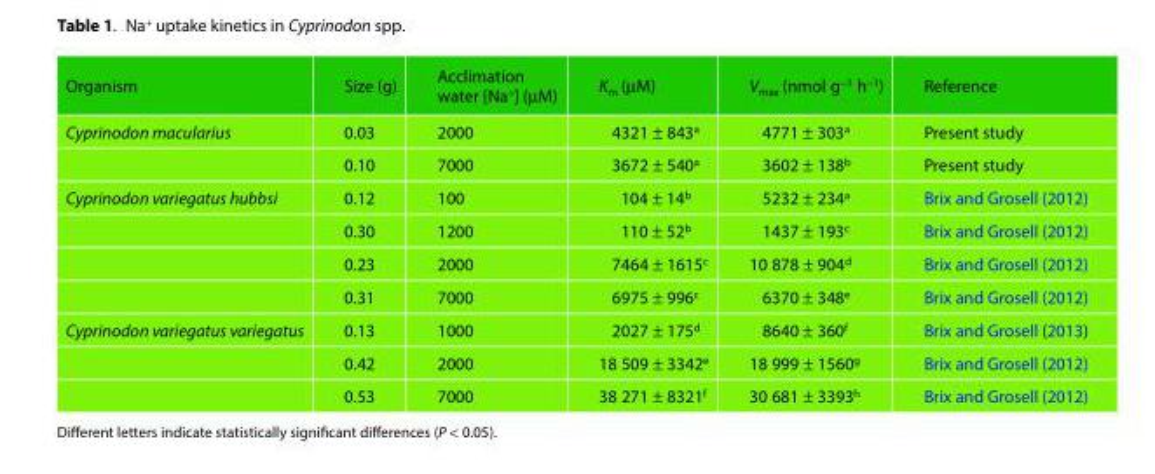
<table><thead><tr><td>Organism</td><td>Size (g)</td><td>Acclimation water [Na<sup>+</sup>] (µM)</td><td>K<sub>m</sub> (µM)</td><td>V<sub>max</sub> (nmol g<sup>−1</sup> h<sup>−1</sup>)</td><td>Reference</td></tr></thead><tbody><tr><td rowspan="2">Cyprinodon macularius</td><td>0.03</td><td>2000</td><td>4321 ± 843<sup>a</sup></td><td>4771 ± 303<sup>a</sup></td><td>Present study</td></tr><tr><td>0.10</td><td>7000</td><td>3672 ± 540<sup>a</sup></td><td>3602 ± 138<sup>b</sup></td><td>Present study</td></tr><tr><td rowspan="4">Cyprinodon variegatus hubbsi</td><td>0.12</td><td>100</td><td>104 ± 14<sup>b</sup></td><td>5232 ± 234<sup>a</sup></td><td>Brix and Grosell (2012)</td></tr><tr><td>0.30</td><td>1200</td><td>110 ± 52<sup>b</sup></td><td>1437 ± 193<sup>c</sup></td><td>Brix and Grosell (2012)</td></tr><tr><td>0.23</td><td>2000</td><td>7464 ± 1615<sup>c</sup></td><td>10 878 ± 904<sup>d</sup></td><td>Brix and Grosell (2012)</td></tr><tr><td>0.31</td><td>7000</td><td>6975 ± 996<sup>c</sup></td><td>6370 ± 348<sup>e</sup></td><td>Brix and Grosell (2012)</td></tr><tr><td rowspan="3">Cyprinodon variegatus variegatus</td><td>0.13</td><td>1000</td><td>2027 ± 175<sup>d</sup></td><td>8640 ± 360<sup>f</sup></td><td>Brix and Grosell (2013 )</td></tr><tr><td>0.42</td><td>2000</td><td>18 509 ± 3342<sup>e</sup></td><td>18 999 ± 1560<sup>g</sup></td><td>Brix and Grosell (2012)</td></tr><tr><td>0.53</td><td>7000</td><td>38 271 ± 8321<sup>f</sup></td><td>30 681 ± 3393<sup>h</sup></td><td>Brix and Grosell (2012)</td></tr></tbody></table>